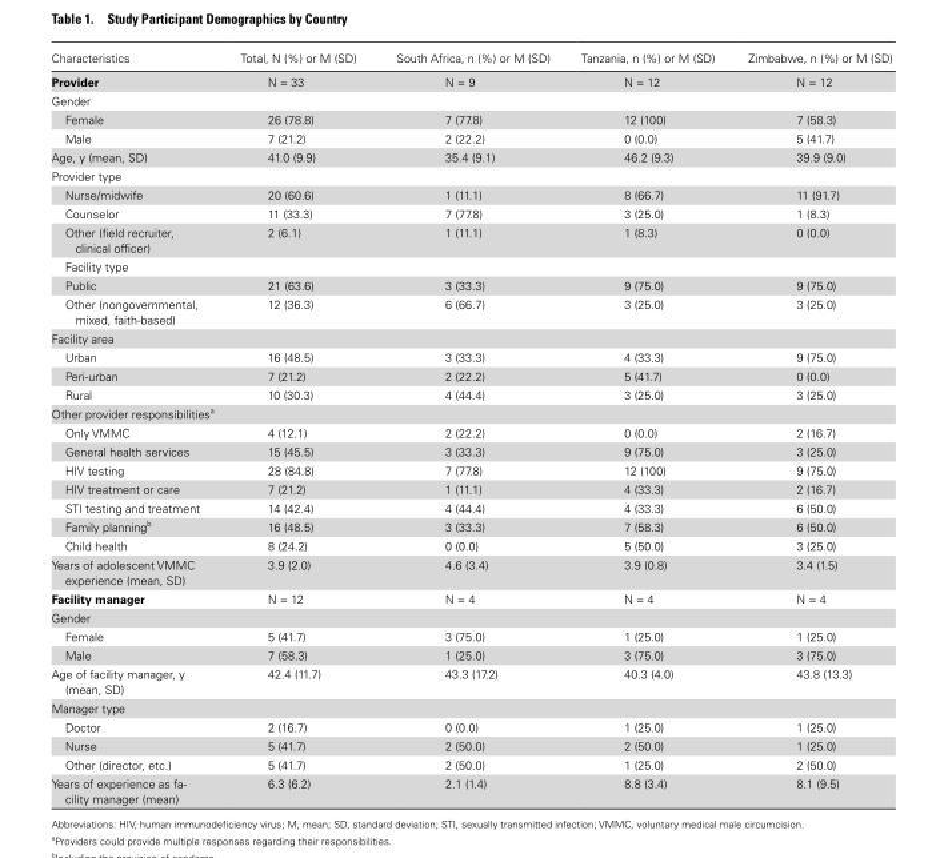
<table><thead><tr><td>Characteristics</td><td>Total, N (%) or M (SD)</td><td>South Africa, n (%) or M (SD)</td><td>Tanzania, n (%) or M (SD)</td><td>Zimbabwe, n (%) or M (SD)</td></tr></thead><tbody><tr><td>Provider</td><td>N = 33</td><td>N = 9</td><td>N = 12</td><td>N = 12</td></tr><tr><td colspan="5">Gender</td></tr><tr><td>Female</td><td>26 (78.8)</td><td>7 (77.8)</td><td>12 (100)</td><td>7 (58.3)</td></tr><tr><td>Male</td><td>7 (21.2)</td><td>2 (22.2)</td><td>0 (0.0)</td><td>5 (41.7)</td></tr><tr><td>Age, y (mean, SD)</td><td>41.0 (9.9)</td><td>35.4 (9.1)</td><td>46.2 (9.3)</td><td>39.9 (9.0)</td></tr><tr><td colspan="5">Provider type</td></tr><tr><td>Nurse/midwife</td><td>20 (60.6)</td><td>1 (11.1)</td><td>8 (66.7)</td><td>11 (91.7)</td></tr><tr><td>Counselor</td><td>11 (33.3)</td><td>7 (77.8)</td><td>3 (25.0)</td><td>1 (8.3)</td></tr><tr><td>Other (field recruiter, clinical officer)</td><td>2 (6.1)</td><td>1 (11.1)</td><td>1 (8.3)</td><td>0 (0.0)</td></tr><tr><td colspan="5">Facility type</td></tr><tr><td>Public</td><td>21 (63.6)</td><td>3 (33.3)</td><td>9 (75.0)</td><td>9 (75.0)</td></tr><tr><td>Other (nongovernmental, mixed, faith-based)</td><td>12 (36.3)</td><td>6 (66.7)</td><td>3 (25.0)</td><td>3 (25.0)</td></tr><tr><td colspan="5">Facility area</td></tr><tr><td>Urban</td><td>16 (48.5)</td><td>3 (33.3)</td><td>4 (33.3)</td><td>9 (75.0)</td></tr><tr><td>Peri-urban</td><td>7 (21.2)</td><td>2 (22.2)</td><td>5 (41.7)</td><td>0 (0.0)</td></tr><tr><td>Rural</td><td>10 (30.3)</td><td>4 (44.4)</td><td>3 (25.0)</td><td>3 (25.0)</td></tr><tr><td colspan="5">Other provider responsibilities<sup>a</sup></td></tr><tr><td>Only VMMC</td><td>4 (12.1)</td><td>2 (22.2)</td><td>0 (0.0)</td><td>2 (16.7)</td></tr><tr><td>General health services</td><td>15 (45.5)</td><td>3 (33.3)</td><td>9 (75.0)</td><td>3 (25.0)</td></tr><tr><td>HIV testing</td><td>28 (84.8)</td><td>7 (77.8)</td><td>12 (100)</td><td>9 (75.0)</td></tr><tr><td>HIV treatment or care</td><td>7 (21.2)</td><td>1 (11.1)</td><td>4 (33.3)</td><td>2 (16.7)</td></tr><tr><td>STI testing and treatment</td><td>14 (42.4)</td><td>4 (44.4)</td><td>4 (33.3)</td><td>6 (50.0)</td></tr><tr><td>Family planning<sup>b</sup></td><td>16 (48.5)</td><td>3 (33.3)</td><td>7 (58.3)</td><td>6 (50.0)</td></tr><tr><td>Child health</td><td>8 (24.2)</td><td>0 (0.0)</td><td>5 (50.0)</td><td>3 (25.0)</td></tr><tr><td>Years of adolescent VMMC experience (mean, SD)</td><td>3.9 (2.0)</td><td>4.6 (3.4)</td><td>3.9 (0.8)</td><td>3.4 (1.5)</td></tr><tr><td>Facility manager</td><td>N = 12</td><td>N = 4</td><td>N = 4</td><td>N = 4</td></tr><tr><td colspan="5">Gender</td></tr><tr><td>Female</td><td>5 (41.7)</td><td>3 (75.0)</td><td>1 (25.0)</td><td>1 (25.0)</td></tr><tr><td>Male</td><td>7 (58.3)</td><td>1 (25.0)</td><td>3 (75.0)</td><td>3 (75.0)</td></tr><tr><td>Age of facility manager, y (mean, SD)</td><td>42.4 (11.7)</td><td>43.3 (17.2)</td><td>40.3 (4.0)</td><td>43.8 (13.3)</td></tr><tr><td colspan="5">Manager type</td></tr><tr><td>Doctor</td><td>2 (16.7)</td><td>0 (0.0)</td><td>1 (25.0)</td><td>1 (25.0)</td></tr><tr><td>Nurse</td><td>5 (41.7)</td><td>2 (50.0)</td><td>2 (50.0)</td><td>1 (25.0)</td></tr><tr><td>Other (director, etc.)</td><td>5 (41.7)</td><td>2 (50.0)</td><td>1 (25.0)</td><td>2 (50.0)</td></tr><tr><td>Years of experience as fa- cility manager (mean)</td><td>6.3 (6.2)</td><td>2.1 (1.4)</td><td>8.8 (3.4)</td><td>8.1 (9.5)</td></tr></tbody></table>